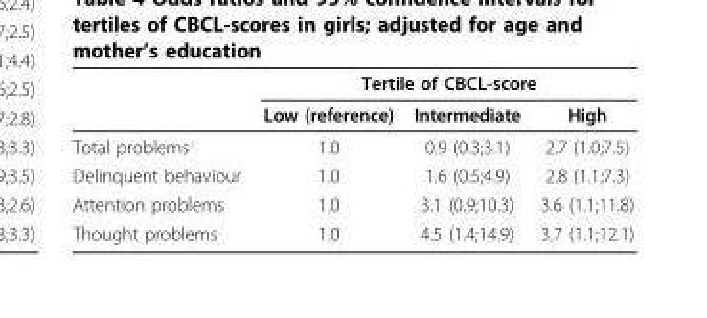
<table><thead><tr><td rowspan="2"></td><td colspan="3">Tertile of CBCL-score</td></tr><tr><td>Low (reference)</td><td>Intermediate</td><td>High</td></tr></thead><tbody><tr><td>Total problems</td><td>1.0</td><td>0.9 (0.3;3.1)</td><td>2.7 (1.0;7.5)</td></tr><tr><td>Delinquent behaviour</td><td>1.0</td><td>1.6 (0.5;4.9)</td><td>2.8 (1.1;7.3)</td></tr><tr><td>Attention problems</td><td>1.0</td><td>3.1 (0.9;10.3)</td><td>3.6 (1.1;11.8)</td></tr><tr><td>Thought problems</td><td>1.0</td><td>4.5 (1.4;14.9)</td><td>3.7 (1.1;12.1)</td></tr></tbody></table>